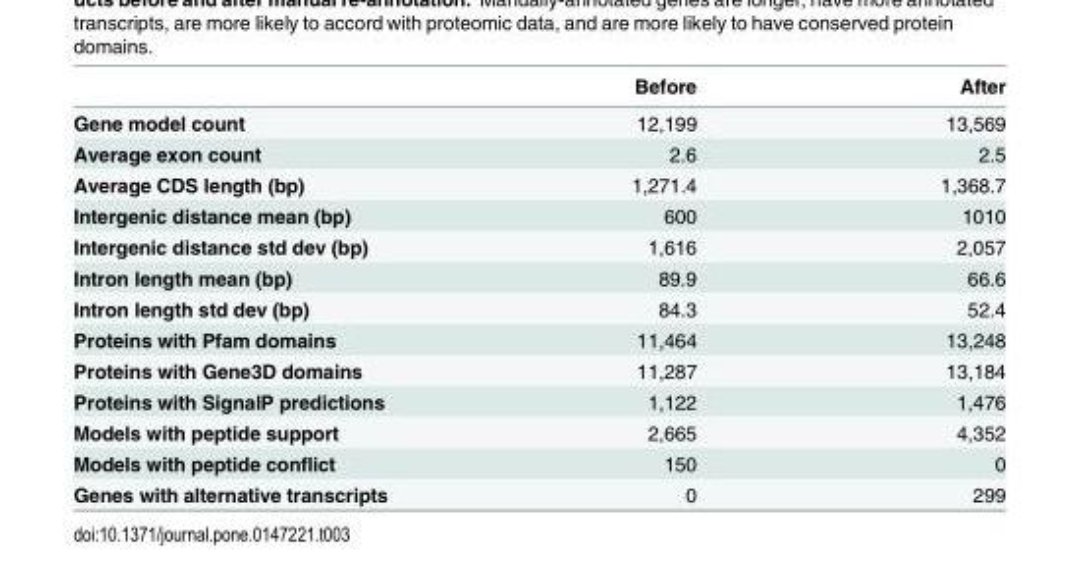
<table><thead><tr><td></td><td>Before</td><td>After</td></tr></thead><tbody><tr><td>Gene model count</td><td>12,199</td><td>13,569</td></tr><tr><td>Average exon count</td><td>2.6</td><td>2.5</td></tr><tr><td>Average CDS length (bp)</td><td>1,271.4</td><td>1,368.7</td></tr><tr><td>Intergenic distance mean (bp)</td><td>600</td><td>1010</td></tr><tr><td>Intergenic distance std dev (bp)</td><td>1,616</td><td>2,057</td></tr><tr><td>Intron length mean (bp)</td><td>89.9</td><td>66.6</td></tr><tr><td>Intron length std dev (bp)</td><td>84.3</td><td>52.4</td></tr><tr><td>Proteins with Pfam domains</td><td>11,464</td><td>13,248</td></tr><tr><td>Proteins with Gene3D domains</td><td>11,287</td><td>13,184</td></tr><tr><td>Proteins with SignalP predictions</td><td>1,122</td><td>1,476</td></tr><tr><td>Models with peptide support</td><td>2,665</td><td>4,352</td></tr><tr><td>Models with peptide conflict</td><td>150</td><td>0</td></tr><tr><td>Genes with alternative transcripts</td><td>0</td><td>299</td></tr></tbody></table>